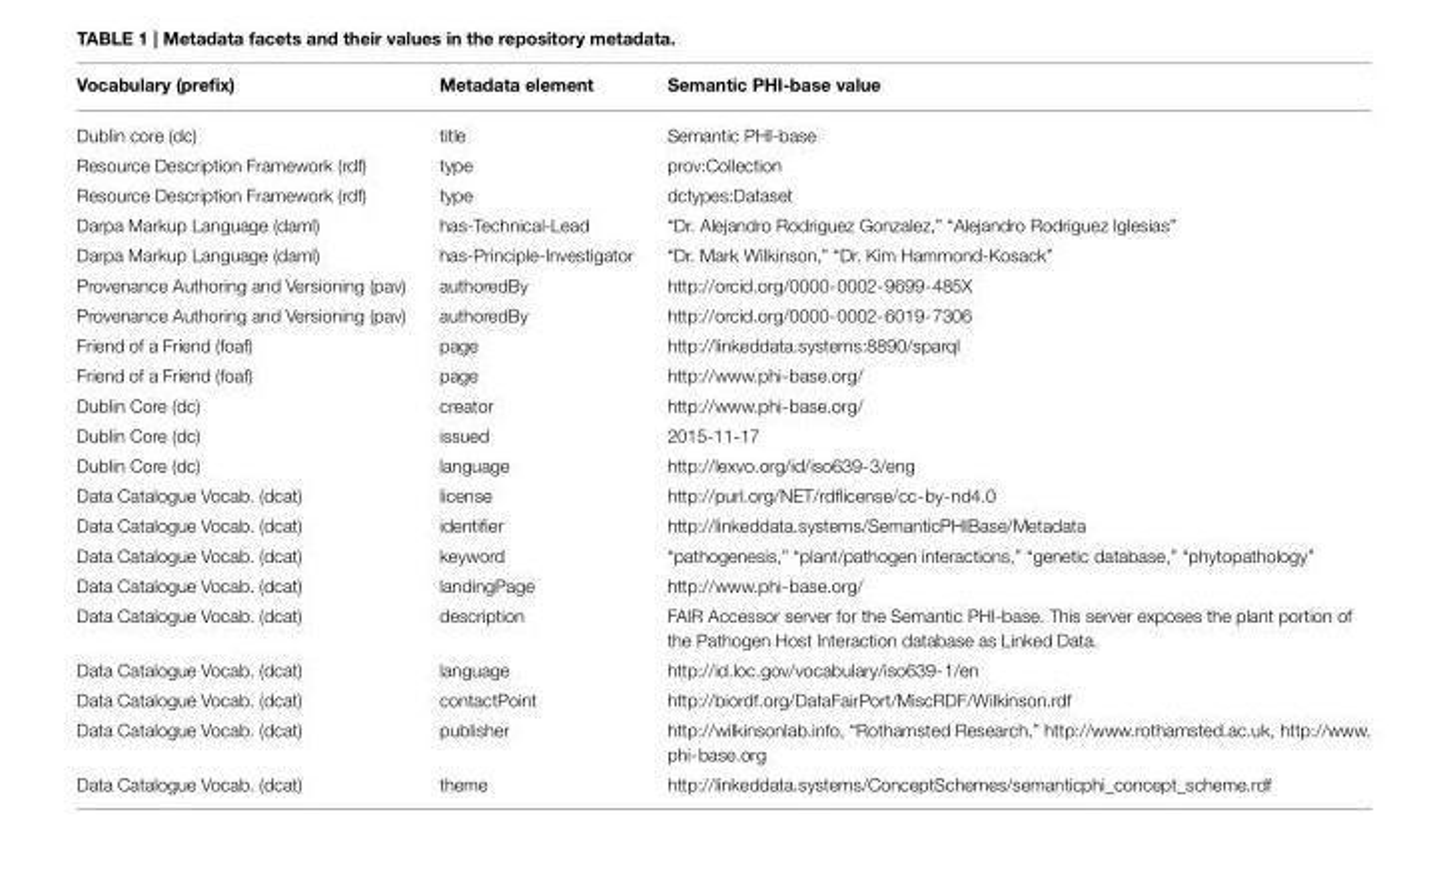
<table><thead><tr><td>Vocabulary (prefix)</td><td>Metadata element</td><td>Semantic PHI-base value</td></tr></thead><tbody><tr><td>Dublin core (dc)</td><td>title</td><td>Semantic PHI-base</td></tr><tr><td>Resource Description Framework (rdf)</td><td>type</td><td>prov:Collection</td></tr><tr><td>Resource Description Framework (rdf)</td><td>type</td><td>dctypes:Dataset</td></tr><tr><td>Darpa Markup Language (daml)</td><td>has-Technical-Lead</td><td>“Dr. Alejandro Rodriguez Gonzalez,” “Alejandro Rodriguez Iglesias”</td></tr><tr><td>Darpa Markup Language (daml)</td><td>has-Principle-Investigator</td><td>“Dr. Mark Wilkinson,” “Dr. Kim Hammond-Kosack”</td></tr><tr><td>Provenance Authoring and Versioning (pav)</td><td>authoredBy</td><td>http://orcid.org/0000-0002-9699-485X</td></tr><tr><td>Provenance Authoring and Versioning (pav)</td><td>authoredBy</td><td>http://orcid.org/0000-0002-6019-7306</td></tr><tr><td>Friend of a Friend (foaf)</td><td>page</td><td>http://linkeddata.systems:8890/sparql</td></tr><tr><td>Friend of a Friend (foaf)</td><td>page</td><td>http://www.phi-base.org/</td></tr><tr><td>Dublin Core (dc)</td><td>creator</td><td>http://www.phi-base.org/</td></tr><tr><td>Dublin Core (dc)</td><td>issued</td><td>2015-11-17</td></tr><tr><td>Dublin Core (dc)</td><td>language</td><td>http://lexvo.org/id/iso639-3/eng</td></tr><tr><td>Data Catalogue Vocab. (dcat)</td><td>license</td><td>http://purl.org/NET/rdflicense/cc-by-nd4.0</td></tr><tr><td>Data Catalogue Vocab. (dcat)</td><td>identifier</td><td>http://linkeddata.systems/SemanticPHIBase/Metadata</td></tr><tr><td>Data Catalogue Vocab. (dcat)</td><td>keyword</td><td>“pathogenesis,” “plant/pathogen interactions,” “genetic database,” “phytopathology”</td></tr><tr><td>Data Catalogue Vocab. (dcat)</td><td>landingPage</td><td>http://www.phi-base.org/</td></tr><tr><td>Data Catalogue Vocab. (dcat)</td><td>description</td><td>FAIR Accessor server for the Semantic PHI-base. This server exposes the plant portion of the Pathogen Host Interaction database as Linked Data.</td></tr><tr><td>Data Catalogue Vocab. (dcat)</td><td>language</td><td>http://id.loc.gov/vocabulary/iso639-1/en</td></tr><tr><td>Data Catalogue Vocab. (dcat)</td><td>contactPoint</td><td>http://biordf.org/DataFairPort/MiscRDF/Wilkinson.rdf</td></tr><tr><td>Data Catalogue Vocab. (dcat)</td><td>publisher</td><td>http://wilkinsonlab.info, “Rothamsted Research,” http://www.rothamsted.ac.uk, http://www. phi-base.org</td></tr><tr><td>Data Catalogue Vocab. (dcat)</td><td>theme</td><td>http://linkeddata.systems/ConceptSchemes/semanticphi_concept_scheme.rdf</td></tr></tbody></table>